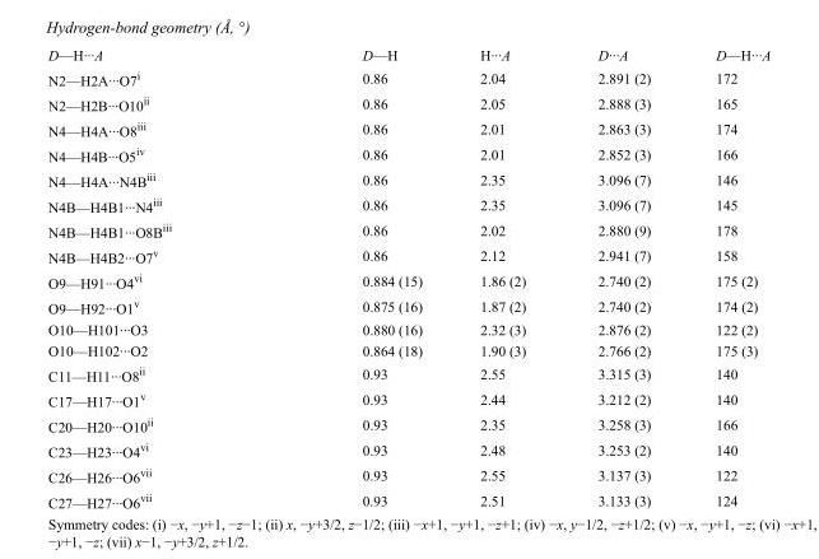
<table><tbody><tr><td>D—H···A</td><td>D—H</td><td>H···A</td><td>D···A</td><td>D—H···A</td></tr><tr><td>N2—H2A···O7<sup>i</sup></td><td>0.86</td><td>2.04</td><td>2.891 (2)</td><td>172</td></tr><tr><td>N2—H2B···O10<sup>ii</sup></td><td>0.86</td><td>2.05</td><td>2.888 (3)</td><td>165</td></tr><tr><td>N4—H4A···O8<sup>iii</sup></td><td>0.86</td><td>2.01</td><td>2.863 (3)</td><td>174</td></tr><tr><td>N4—H4B···O5<sup>iv</sup></td><td>0.86</td><td>2.01</td><td>2.852 (3)</td><td>166</td></tr><tr><td>N4—H4A···N4B<sup>iii</sup></td><td>0.86</td><td>2.35</td><td>3.096 (7)</td><td>146</td></tr><tr><td>N4B—H4B1···N4<sup>iii</sup></td><td>0.86</td><td>2.35</td><td>3.096 (7)</td><td>145</td></tr><tr><td>N4B—H4B1···O8B<sup>iii</sup></td><td>0.86</td><td>2.02</td><td>2.880 (9)</td><td>178</td></tr><tr><td>N4B—H4B2···O7<sup>v</sup></td><td>0.86</td><td>2.12</td><td>2.941 (7)</td><td>158</td></tr><tr><td>O9—H91···O4<sup>vi</sup></td><td>0.884 (15)</td><td>1.86 (2)</td><td>2.740 (2)</td><td>175 (2)</td></tr><tr><td>O9—H92···O1<sup>v</sup></td><td>0.875 (16)</td><td>1.87 (2)</td><td>2.740 (2)</td><td>174 (2)</td></tr><tr><td>O10—H101···O3</td><td>0.880 (16)</td><td>2.32 (3)</td><td>2.876 (2)</td><td>122 (2)</td></tr><tr><td>O10—H102···O2</td><td>0.864 (18)</td><td>1.90 (3)</td><td>2.766 (2)</td><td>175 (3)</td></tr><tr><td>C11—H11···O8<sup>ii</sup></td><td>0.93</td><td>2.55</td><td>3.315 (3)</td><td>140</td></tr><tr><td>C17—H17···O1<sup>v</sup></td><td>0.93</td><td>2.44</td><td>3.212 (2)</td><td>140</td></tr><tr><td>C20—H20···O10<sup>ii</sup></td><td>0.93</td><td>2.35</td><td>3.258 (3)</td><td>166</td></tr><tr><td>C23—H23···O4<sup>vi</sup></td><td>0.93</td><td>2.48</td><td>3.253 (2)</td><td>140</td></tr><tr><td>C26—H26···O6<sup>vii</sup></td><td>0.93</td><td>2.55</td><td>3.137 (3)</td><td>122</td></tr><tr><td>C27—H27···O6<sup>vii</sup></td><td>0.93</td><td>2.51</td><td>3.133 (3)</td><td>124</td></tr></tbody></table>